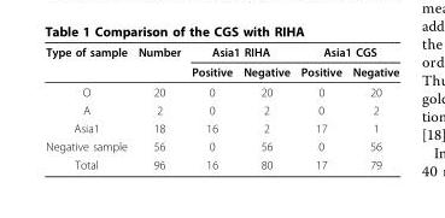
<table><thead><tr><td rowspan="2">Type of sample</td><td rowspan="2">Number</td><td colspan="2">Asia1 RIHA</td><td colspan="2">Asia1 CGS</td></tr><tr><td>Positive</td><td>Negative</td><td>Positive</td><td>Negative</td></tr></thead><tbody><tr><td>O</td><td>20</td><td>0</td><td>20</td><td>0</td><td>20</td></tr><tr><td>A</td><td>2</td><td>0</td><td>2</td><td>0</td><td>2</td></tr><tr><td>Asia1</td><td>18</td><td>16</td><td>2</td><td>17</td><td>1</td></tr><tr><td>Negative sample</td><td>56</td><td>0</td><td>56</td><td>0</td><td>56</td></tr><tr><td>Total</td><td>96</td><td>16</td><td>80</td><td>17</td><td>79</td></tr></tbody></table>